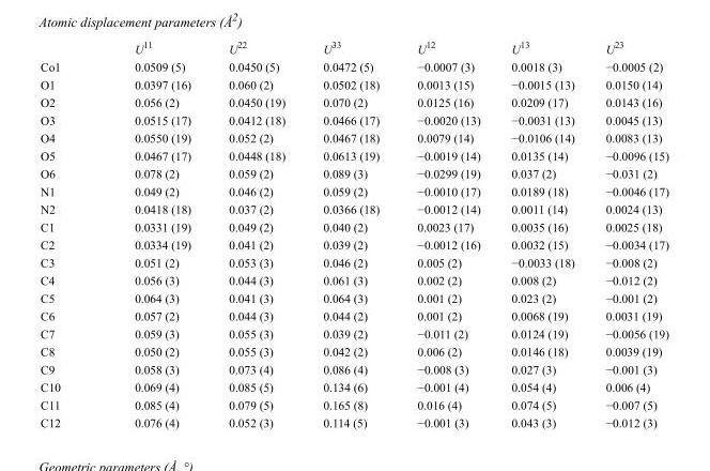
<table><thead><tr><td></td><td>U11</td><td>U22</td><td>U33</td><td>U12</td><td>U13</td><td>U23</td></tr></thead><tbody><tr><td>Co1</td><td>0.0509 (5)</td><td>0.0450 (5)</td><td>0.0472 (5)</td><td>−0.0007 (3)</td><td>0.0018 (3)</td><td>−0.0005 (2)</td></tr><tr><td>O1</td><td>0.0397 (16)</td><td>0.060 (2)</td><td>0.0502 (18)</td><td>0.0013 (15)</td><td>−0.0015 (13)</td><td>0.0150 (14)</td></tr><tr><td>O2</td><td>0.056 (2)</td><td>0.0450 (19)</td><td>0.070 (2)</td><td>0.0125 (16)</td><td>0.0209 (17)</td><td>0.0143 (16)</td></tr><tr><td>O3</td><td>0.0515 (17)</td><td>0.0412 (18)</td><td>0.0466 (17)</td><td>−0.0020 (13)</td><td>−0.0031 (13)</td><td>0.0045 (13)</td></tr><tr><td>O4</td><td>0.0550 (19)</td><td>0.052 (2)</td><td>0.0467 (18)</td><td>0.0079 (14)</td><td>−0.0106 (14)</td><td>0.0083 (13)</td></tr><tr><td>O5</td><td>0.0467 (17)</td><td>0.0448 (18)</td><td>0.0613 (19)</td><td>−0.0019 (14)</td><td>0.0135 (14)</td><td>−0.0096 (15)</td></tr><tr><td>O6</td><td>0.078 (2)</td><td>0.059 (2)</td><td>0.089 (3)</td><td>−0.0299 (19)</td><td>0.037 (2)</td><td>−0.031 (2)</td></tr><tr><td>N1</td><td>0.049 (2)</td><td>0.046 (2)</td><td>0.059 (2)</td><td>−0.0010 (17)</td><td>0.0189 (18)</td><td>−0.0046 (17)</td></tr><tr><td>N2</td><td>0.0418 (18)</td><td>0.037 (2)</td><td>0.0366 (18)</td><td>−0.0012 (14)</td><td>0.0011 (14)</td><td>0.0024 (13)</td></tr><tr><td>C1</td><td>0.0331 (19)</td><td>0.049 (2)</td><td>0.040 (2)</td><td>0.0023 (17)</td><td>0.0035 (16)</td><td>0.0025 (18)</td></tr><tr><td>C2</td><td>0.0334 (19)</td><td>0.041 (2)</td><td>0.039 (2)</td><td>−0.0012 (16)</td><td>0.0032 (15)</td><td>−0.0034 (17)</td></tr><tr><td>C3</td><td>0.051 (2)</td><td>0.053 (3)</td><td>0.046 (2)</td><td>0.005 (2)</td><td>−0.0033 (18)</td><td>−0.008 (2)</td></tr><tr><td>C4</td><td>0.056 (3)</td><td>0.044 (3)</td><td>0.061 (3)</td><td>0.002 (2)</td><td>0.008 (2)</td><td>−0.012 (2)</td></tr><tr><td>C5</td><td>0.064 (3)</td><td>0.041 (3)</td><td>0.064 (3)</td><td>0.001 (2)</td><td>0.023 (2)</td><td>−0.001 (2)</td></tr><tr><td>C6</td><td>0.057 (2)</td><td>0.044 (3)</td><td>0.044 (2)</td><td>0.001 (2)</td><td>0.0068 (19)</td><td>0.0031 (19)</td></tr><tr><td>C7</td><td>0.059 (3)</td><td>0.055 (3)</td><td>0.039 (2)</td><td>−0.011 (2)</td><td>0.0124 (19)</td><td>−0.0056 (19)</td></tr><tr><td>C8</td><td>0.050 (2)</td><td>0.055 (3)</td><td>0.042 (2)</td><td>0.006 (2)</td><td>0.0146 (18)</td><td>0.0039 (19)</td></tr><tr><td>C9</td><td>0.058 (3)</td><td>0.073 (4)</td><td>0.086 (4)</td><td>−0.008 (3)</td><td>0.027 (3)</td><td>−0.001 (3)</td></tr><tr><td>C10</td><td>0.069 (4)</td><td>0.085 (5)</td><td>0.134 (6)</td><td>−0.001 (4)</td><td>0.054 (4)</td><td>0.006 (4)</td></tr><tr><td>C11</td><td>0.085 (4)</td><td>0.079 (5)</td><td>0.165 (8)</td><td>0.016 (4)</td><td>0.074 (5)</td><td>−0.007 (5)</td></tr><tr><td>C12</td><td>0.076 (4)</td><td>0.052 (3)</td><td>0.114 (5)</td><td>−0.001 (3)</td><td>0.043 (3)</td><td>−0.012 (3)</td></tr></tbody></table>